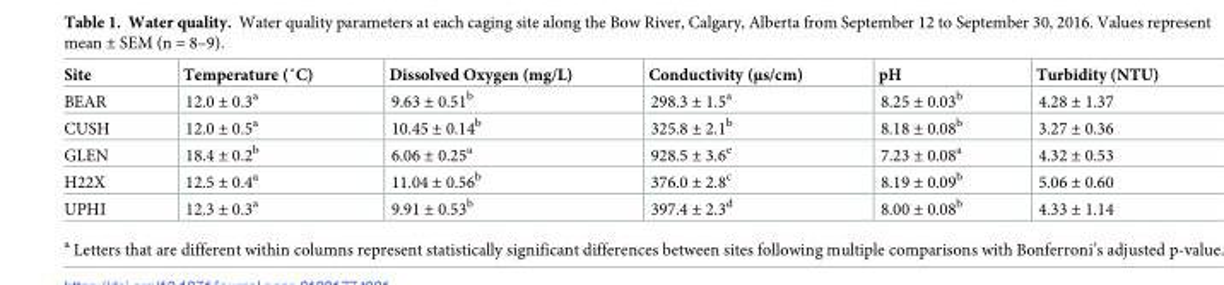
<table><thead><tr><td>Site</td><td>Temperature (˚C)</td><td>Dissolved Oxygen (mg/L)</td><td>Conductivity (μs/cm)</td><td>pH</td><td>Turbidity (NTU)</td></tr></thead><tbody><tr><td>BEAR</td><td>12.0 ± 0.3<sup>a</sup></td><td>9.63 ± 0.51<sup>b</sup></td><td>298.3 ± 1.5<sup>a</sup></td><td>8.25 ± 0.03<sup>b</sup></td><td>4.28 ± 1.37</td></tr><tr><td>CUSH</td><td>12.0 ± 0.5<sup>a</sup></td><td>10.45 ± 0.14<sup>b</sup></td><td>325.8 ± 2.1<sup>b</sup></td><td>8.18 ± 0.08<sup>b</sup></td><td>3.27 ± 0.36</td></tr><tr><td>GLEN</td><td>18.4 ± 0.2<sup>b</sup></td><td>6.06 ± 0.25<sup>a</sup></td><td>928.5 ± 3.6<sup>e</sup></td><td>7.23 ± 0.08<sup>a</sup></td><td>4.32 ± 0.53</td></tr><tr><td>H22X</td><td>12.5 ± 0.4<sup>a</sup></td><td>11.04 ± 0.56<sup>b</sup></td><td>376.0 ± 2.8<sup>c</sup></td><td>8.19 ± 0.09<sup>b</sup></td><td>5.06 ± 0.60</td></tr><tr><td>UPHI</td><td>12.3 ± 0.3<sup>a</sup></td><td>9.91 ± 0.53<sup>b</sup></td><td>397.4 ± 2.3<sup>d</sup></td><td>8.00 ± 0.08<sup>b</sup></td><td>4.33 ± 1.14</td></tr></tbody></table>